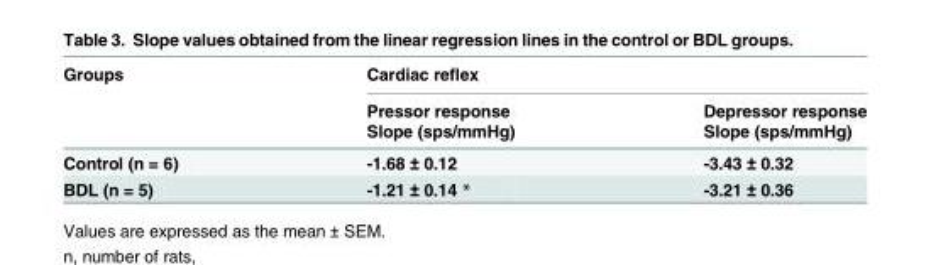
<table><thead><tr><td rowspan="3">Groups</td><td colspan="2">Cardiac reflex</td></tr><tr><td rowspan="2">Pressor response Slope (sps/mmHg)</td><td rowspan="2">Depressor response Slope (sps/mmHg)</td></tr><tr></tr></thead><tbody><tr><td>Control (n = 6)</td><td>-1.68 ± 0.12</td><td>-3.43 ± 0.32</td></tr><tr><td>BDL (n = 5)</td><td>-1.21 ± 0.14 *</td><td>-3.21 ± 0.36</td></tr></tbody></table>